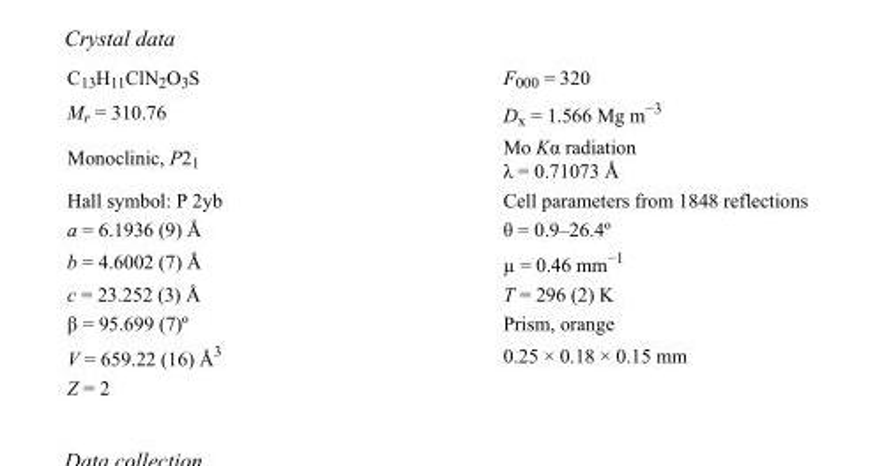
<table><tbody><tr><td>C<sub>13</sub>H<sub>11</sub>ClN<sub>2</sub>O<sub>3</sub>S</td><td>F000 = 320</td></tr><tr><td>M<sub>r</sub> = 310.76</td><td>D<sub>x</sub> = 1.566 Mg m<sup>−3</sup></td></tr><tr><td>Monoclinic, P2<sub>1</sub></td><td>Mo Kα radiation λ = 0.71073 Å</td></tr><tr><td>Hall symbol: P 2yb</td><td>Cell parameters from 1848 reflections</td></tr><tr><td>a = 6.1936 (9) Å</td><td>θ = 0.9–26.4º</td></tr><tr><td>b = 4.6002 (7) Å</td><td>µ = 0.46 mm<sup>−1</sup></td></tr><tr><td>c = 23.252 (3) Å</td><td>T = 296 (2) K</td></tr><tr><td>β = 95.699 (7)º</td><td>Prism, orange</td></tr><tr><td>V = 659.22 (16) Å<sup>3</sup></td><td>0.25 × 0.18 × 0.15 mm</td></tr><tr><td>Z = 2</td><td></td></tr></tbody></table>